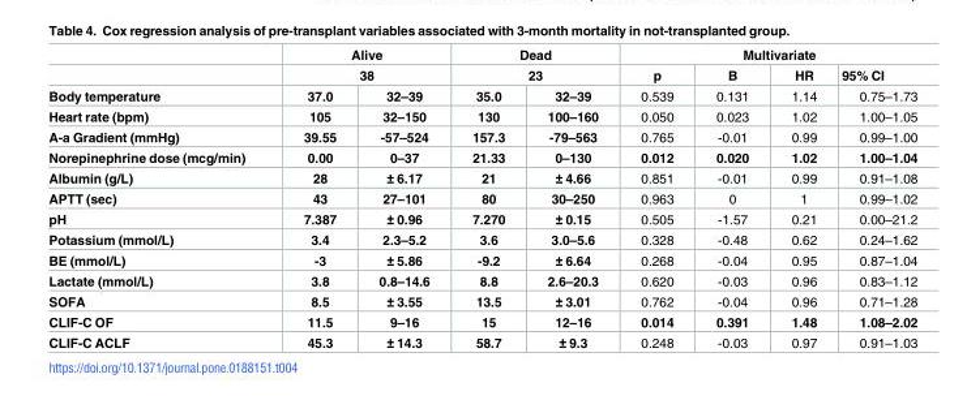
<table><thead><tr><td rowspan="3">Body temperature</td><td rowspan="2" colspan="2">Alive 38</td><td rowspan="2" colspan="2">Dead 23</td><td colspan="4">Multivariate</td></tr><tr><td rowspan="2">p 0.539</td><td rowspan="2">B 0.131</td><td rowspan="2">HR 1.14</td><td rowspan="2">95% CI 0.75–1.73</td></tr><tr><td>37.0</td><td>32–39</td><td>35.0</td><td>32–39</td></tr></thead><tbody><tr><td>Heart rate (bpm)</td><td>105</td><td>32–150</td><td>130</td><td>100–160</td><td>0.050</td><td>0.023</td><td>1.02</td><td>1.00–1.05</td></tr><tr><td>A-a Gradient (mmHg)</td><td>39.55</td><td>-57–524</td><td>157.3</td><td>-79–563</td><td>0.765</td><td>-0.01</td><td>0.99</td><td>0.99–1.00</td></tr><tr><td>Norepinephrine dose (mcg/min)</td><td>0.00</td><td>0–37</td><td>21.33</td><td>0–130</td><td>0.012</td><td>0.020</td><td>1.02</td><td>1.00–1.04</td></tr><tr><td>Albumin (g/L)</td><td>28</td><td>± 6.17</td><td>21</td><td>± 4.66</td><td>0.851</td><td>-0.01</td><td>0.99</td><td>0.91–1.08</td></tr><tr><td>APTT (sec)</td><td>43</td><td>27–101</td><td>80</td><td>30–250</td><td>0.963</td><td>0</td><td>1</td><td>0.99–1.02</td></tr><tr><td>pH</td><td>7.387</td><td>± 0.96</td><td>7.270</td><td>± 0.15</td><td>0.505</td><td>-1.57</td><td>0.21</td><td>0.00–21.2</td></tr><tr><td>Potassium (mmol/L)</td><td>3.4</td><td>2.3–5.2</td><td>3.6</td><td>3.0–5.6</td><td>0.328</td><td>-0.48</td><td>0.62</td><td>0.24–1.62</td></tr><tr><td>BE (mmol/L)</td><td>-3</td><td>± 5.86</td><td>-9.2</td><td>± 6.64</td><td>0.268</td><td>-0.04</td><td>0.95</td><td>0.87–1.04</td></tr><tr><td>Lactate (mmol/L)</td><td>3.8</td><td>0.8–14.6</td><td>8.8</td><td>2.6–20.3</td><td>0.620</td><td>-0.03</td><td>0.96</td><td>0.83–1.12</td></tr><tr><td>SOFA</td><td>8.5</td><td>± 3.55</td><td>13.5</td><td>± 3.01</td><td>0.762</td><td>-0.04</td><td>0.96</td><td>0.71–1.28</td></tr><tr><td>CLIF-C OF</td><td>11.5</td><td>9–16</td><td>15</td><td>12–16</td><td>0.014</td><td>0.391</td><td>1.48</td><td>1.08–2.02</td></tr><tr><td>CLIF-C ACLF</td><td>45.3</td><td>± 14.3</td><td>58.7</td><td>± 9.3</td><td>0.248</td><td>-0.03</td><td>0.97</td><td>0.91–1.03</td></tr></tbody></table>